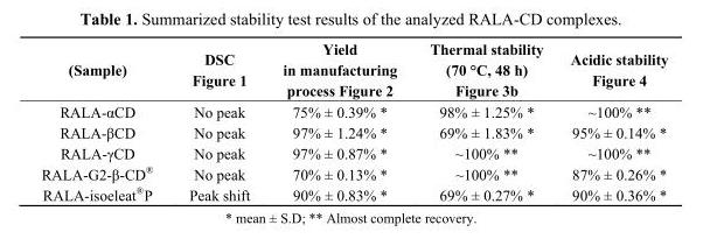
<table><thead><tr><td>(Sample)</td><td>DSC Figure 1</td><td>Yield in manufacturing process Figure 2</td><td>Thermal stability (70 °C, 48 h) Figure 3b</td><td>Acidic stability Figure 4</td></tr></thead><tbody><tr><td>RALA-αCD</td><td>No peak</td><td>75% ± 0.39% *</td><td>98% ± 1.25% *</td><td>~100% **</td></tr><tr><td>RALA-βCD</td><td>No peak</td><td>97% ± 1.24% *</td><td>69% ± 1.83% *</td><td>95% ± 0.14% *</td></tr><tr><td>RALA-γCD</td><td>No peak</td><td>97% ± 0.87% *</td><td>~100% **</td><td>~100% **</td></tr><tr><td>RALA-G2-β-CD<sup>®</sup></td><td>No peak</td><td>70% ± 0.13% *</td><td>~100% **</td><td>87% ± 0.26% *</td></tr><tr><td>RALA-isoeleat<sup>®</sup>P</td><td>Peak shift</td><td>90% ± 0.83% *</td><td>69% ± 0.27% *</td><td>90% ± 0.36% *</td></tr></tbody></table>